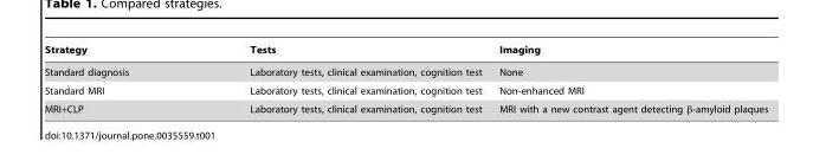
<table><thead><tr><td>Strategy</td><td>Tests</td><td>Imaging</td></tr></thead><tbody><tr><td>Standard diagnosis</td><td>Laboratory tests, clinical examination, cognition test</td><td>None</td></tr><tr><td>Standard MRI</td><td>Laboratory tests, clinical examination, cognition test</td><td>Non-enhanced MRI</td></tr><tr><td>MRI+CLP</td><td>Laboratory tests, clinical examination, cognition test</td><td>MRI with a new contrast agent detecting β-amyloid plaques</td></tr></tbody></table>